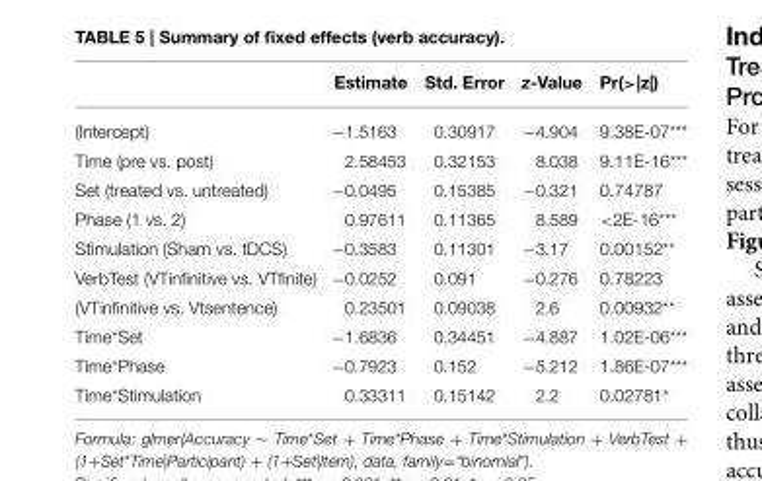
<table><thead><tr><td></td><td>Estimate</td><td>Std. Error</td><td>z-Value</td><td>Pr(&gt;|z|)</td></tr></thead><tbody><tr><td>(Intercept)</td><td>−1.5163</td><td>0.30917</td><td>−4.904</td><td>9.38E-07***</td></tr><tr><td>Time (pre vs. post)</td><td>2.58453</td><td>0.32153</td><td>8.038</td><td>9.11E-16***</td></tr><tr><td>Set (treated vs. untreated)</td><td>−0.0495</td><td>0.15385</td><td>−0.321</td><td>0.74787</td></tr><tr><td>Phase (1 vs. 2)</td><td>0.97611</td><td>0.11365</td><td>8.589</td><td>&lt;2E-16***</td></tr><tr><td>Stimulation (Sham vs. tDCS)</td><td>−0.3583</td><td>0.11301</td><td>−3.17</td><td>0.00152**</td></tr><tr><td>VerbTest (VTinfinitive vs. VTfinite)</td><td>−0.0252</td><td>0.091</td><td>−0.276</td><td>0.78223</td></tr><tr><td>(VTinfinitive vs. Vtsentence)</td><td>0.23501</td><td>0.09038</td><td>2.6</td><td>0.00932**</td></tr><tr><td>Time*Set</td><td>−1.6836</td><td>0.34451</td><td>−4.887</td><td>1.02E-06***</td></tr><tr><td>Time*Phase</td><td>−0.7923</td><td>0.152</td><td>−5.212</td><td>1.86E-07***</td></tr><tr><td>Time*Stimulation</td><td>0.33311</td><td>0.15142</td><td>2.2</td><td>0.02781*</td></tr></tbody></table>